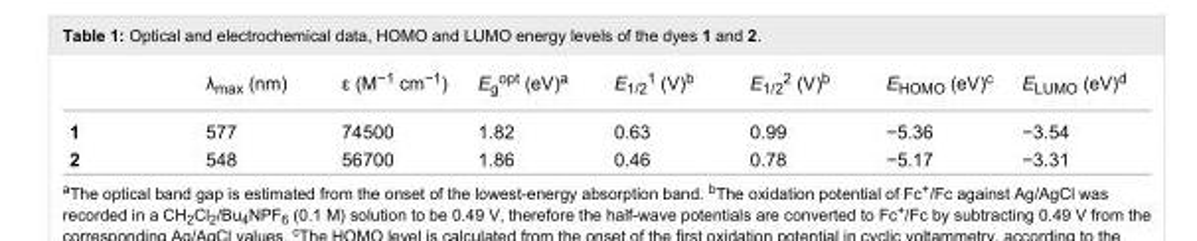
<table><thead><tr><td></td><td>λ<sub>max</sub> (nm)</td><td>ε (M<sup>−1</sup> cm<sup>−1</sup>)</td><td>E<sub>g</sub><sup>opt</sup> (eV)<sup>a</sup></td><td>E<sub>1/2</sub><sup>1</sup> (V)<sup>b</sup></td><td>E<sub>1/2</sub><sup>2</sup> (V)<sup>b</sup></td><td>E<sub>HOMO</sub> (eV)<sup>c</sup></td><td>E<sub>LUMO</sub> (eV)<sup>d</sup></td></tr></thead><tbody><tr><td>1</td><td>577</td><td>74500</td><td>1.82</td><td>0.63</td><td>0.99</td><td>−5.36</td><td>−3.54</td></tr><tr><td>2</td><td>548</td><td>56700</td><td>1.86</td><td>0.46</td><td>0.78</td><td>−5.17</td><td>−3.31</td></tr></tbody></table>